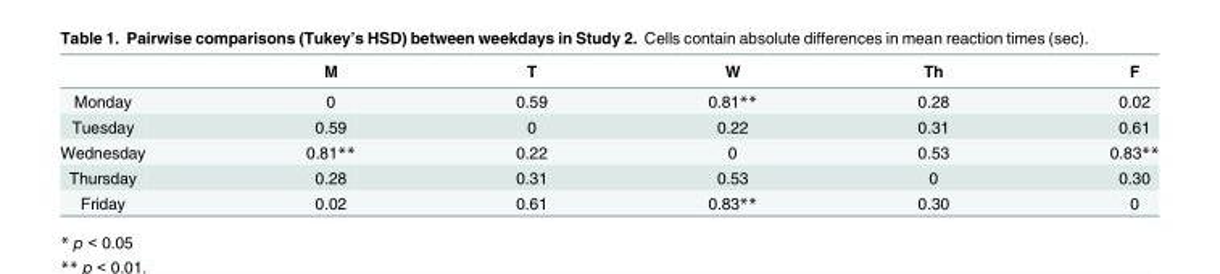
<table><thead><tr><td></td><td>M</td><td>T</td><td>W</td><td>Th</td><td>F</td></tr></thead><tbody><tr><td>Monday</td><td>0</td><td>0.59</td><td>0.81**</td><td>0.28</td><td>0.02</td></tr><tr><td>Tuesday</td><td>0.59</td><td>0</td><td>0.22</td><td>0.31</td><td>0.61</td></tr><tr><td>Wednesday</td><td>0.81**</td><td>0.22</td><td>0</td><td>0.53</td><td>0.83**</td></tr><tr><td>Thursday</td><td>0.28</td><td>0.31</td><td>0.53</td><td>0</td><td>0.30</td></tr><tr><td>Friday</td><td>0.02</td><td>0.61</td><td>0.83**</td><td>0.30</td><td>0</td></tr></tbody></table>